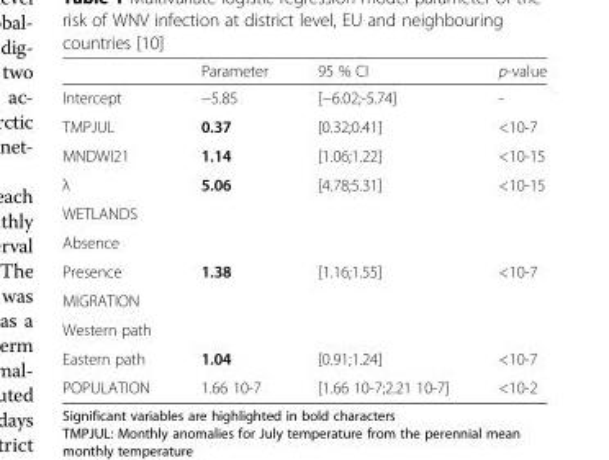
<table><thead><tr><td></td><td>Parameter</td><td>95 % CI</td><td>p-value</td></tr></thead><tbody><tr><td>Intercept</td><td>−5.85</td><td>[−6.02;-5.74]</td><td>-</td></tr><tr><td>TMPJUL</td><td>0.37</td><td>[0.32;0.41]</td><td>&lt;10-7</td></tr><tr><td>MNDWI21</td><td>1.14</td><td>[1.06;1.22]</td><td>&lt;10-15</td></tr><tr><td>λ</td><td>5.06</td><td>[4.78;5.31]</td><td>&lt;10-15</td></tr><tr><td>WETLANDS</td><td rowspan="3">1.38</td><td rowspan="3">[1.16;1.55]</td><td rowspan="3">&lt;10-7</td></tr><tr><td>Absence</td></tr><tr><td>Presence</td></tr><tr><td>MIGRATION</td><td rowspan="3">1.04</td><td rowspan="3">[0.91;1.24]</td><td rowspan="3">&lt;10-7</td></tr><tr><td>Western path</td></tr><tr><td>Eastern path</td></tr><tr><td>POPULATION</td><td>1.66 10-7</td><td>[1.66 10-7;2.21 10-7]</td><td>&lt;10-2</td></tr></tbody></table>